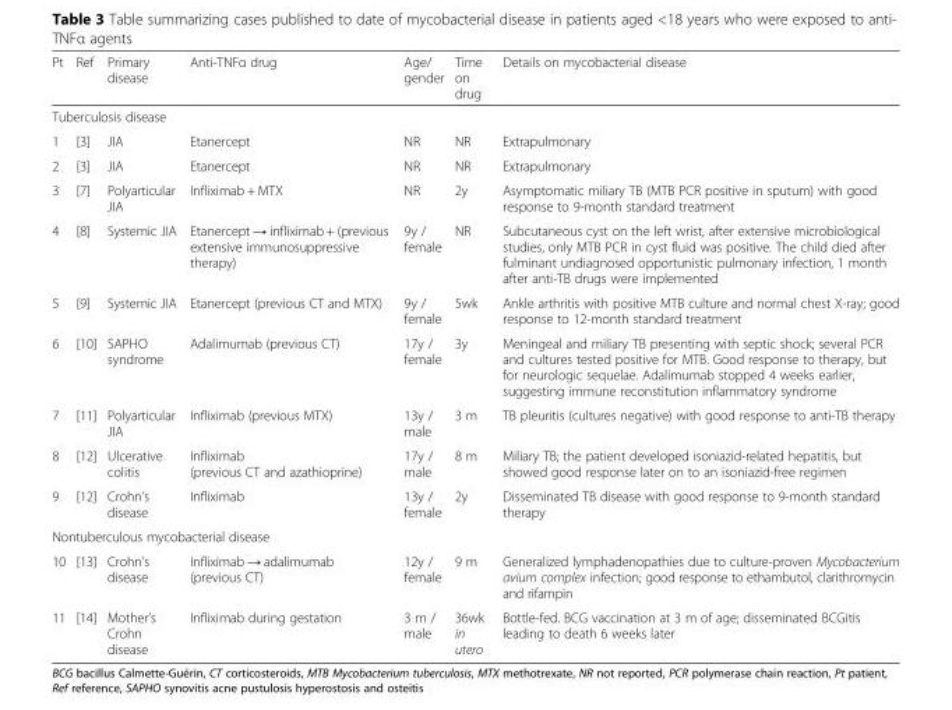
<table><thead><tr><td>Pt</td><td>Ref</td><td>Primary disease</td><td>Anti-TNFα drug</td><td>Age/ gender</td><td>Time on drug</td><td>Details on mycobacterial disease</td></tr></thead><tbody><tr><td colspan="7">Tuberculosis disease</td></tr><tr><td>1</td><td>[3]</td><td>JIA</td><td>Etanercept</td><td>NR</td><td>NR</td><td>Extrapulmonary</td></tr><tr><td>2</td><td>[3]</td><td>JIA</td><td>Etanercept</td><td>NR</td><td>NR</td><td>Extrapulmonary</td></tr><tr><td>3</td><td>[7]</td><td>Polyarticular JIA</td><td>Infliximab + MTX</td><td>NR</td><td>2y</td><td>Asymptomatic miliary TB (MTB PCR positive in sputum) with good response to 9-month standard treatment</td></tr><tr><td>4</td><td>[8]</td><td>Systemic JIA</td><td>Etanercept → infliximab + (previous extensive immunosuppressive therapy)</td><td>9y / female</td><td>NR</td><td>Subcutaneous cyst on the left wrist, after extensive microbiological studies, only MTB PCR in cyst fluid was positive. The child died after fulminant undiagnosed opportunistic pulmonary infection, 1 month after anti-TB drugs were implemented</td></tr><tr><td>5</td><td>[9]</td><td>Systemic JIA</td><td>Etanercept (previous CT and MTX)</td><td>9y / female</td><td>5wk</td><td>Ankle arthritis with positive MTB culture and normal chest X-ray; good response to 12-month standard treatment</td></tr><tr><td>6</td><td>[10]</td><td>SAPHO syndrome</td><td>Adalimumab (previous CT)</td><td>17y / female</td><td>3y</td><td>Meningeal and miliary TB presenting with septic shock; several PCR and cultures tested positive for MTB. Good response to therapy, but for neurologic sequelae. Adalimumab stopped 4 weeks earlier, suggesting immune reconstitution inflammatory syndrome</td></tr><tr><td>7</td><td>[11]</td><td>Polyarticular JIA</td><td>Infliximab (previous MTX)</td><td>13y / male</td><td>3 m</td><td>TB pleuritis (cultures negative) with good response to anti-TB therapy</td></tr><tr><td>8</td><td>[12]</td><td>Ulcerative colitis</td><td>Infliximab (previous CT and azathioprine)</td><td>17y / male</td><td>8 m</td><td>Miliary TB; the patient developed isoniazid-related hepatitis, but showed good response later on to an isoniazid-free regimen</td></tr><tr><td>9</td><td>[12]</td><td>Crohn’s disease</td><td>Infliximab</td><td>13y / female</td><td>2y</td><td>Disseminated TB disease with good response to 9-month standard therapy</td></tr><tr><td colspan="7">Nontuberculous mycobacterial disease</td></tr><tr><td>10</td><td>[13]</td><td>Crohn’s disease</td><td>Infliximab → adalimumab (previous CT)</td><td>12y / female</td><td>9 m</td><td>Generalized lymphadenopathies due to culture-proven Mycobacterium avium complex infection; good response to ethambutol, clarithromycin and rifampin</td></tr><tr><td>11</td><td>[14]</td><td>Mother’s Crohn disease</td><td>Infliximab during gestation</td><td>3 m / male</td><td>36wk in utero</td><td>Bottle-fed. BCG vaccination at 3 m of age; disseminated BCGitis leading to death 6 weeks later</td></tr></tbody></table>